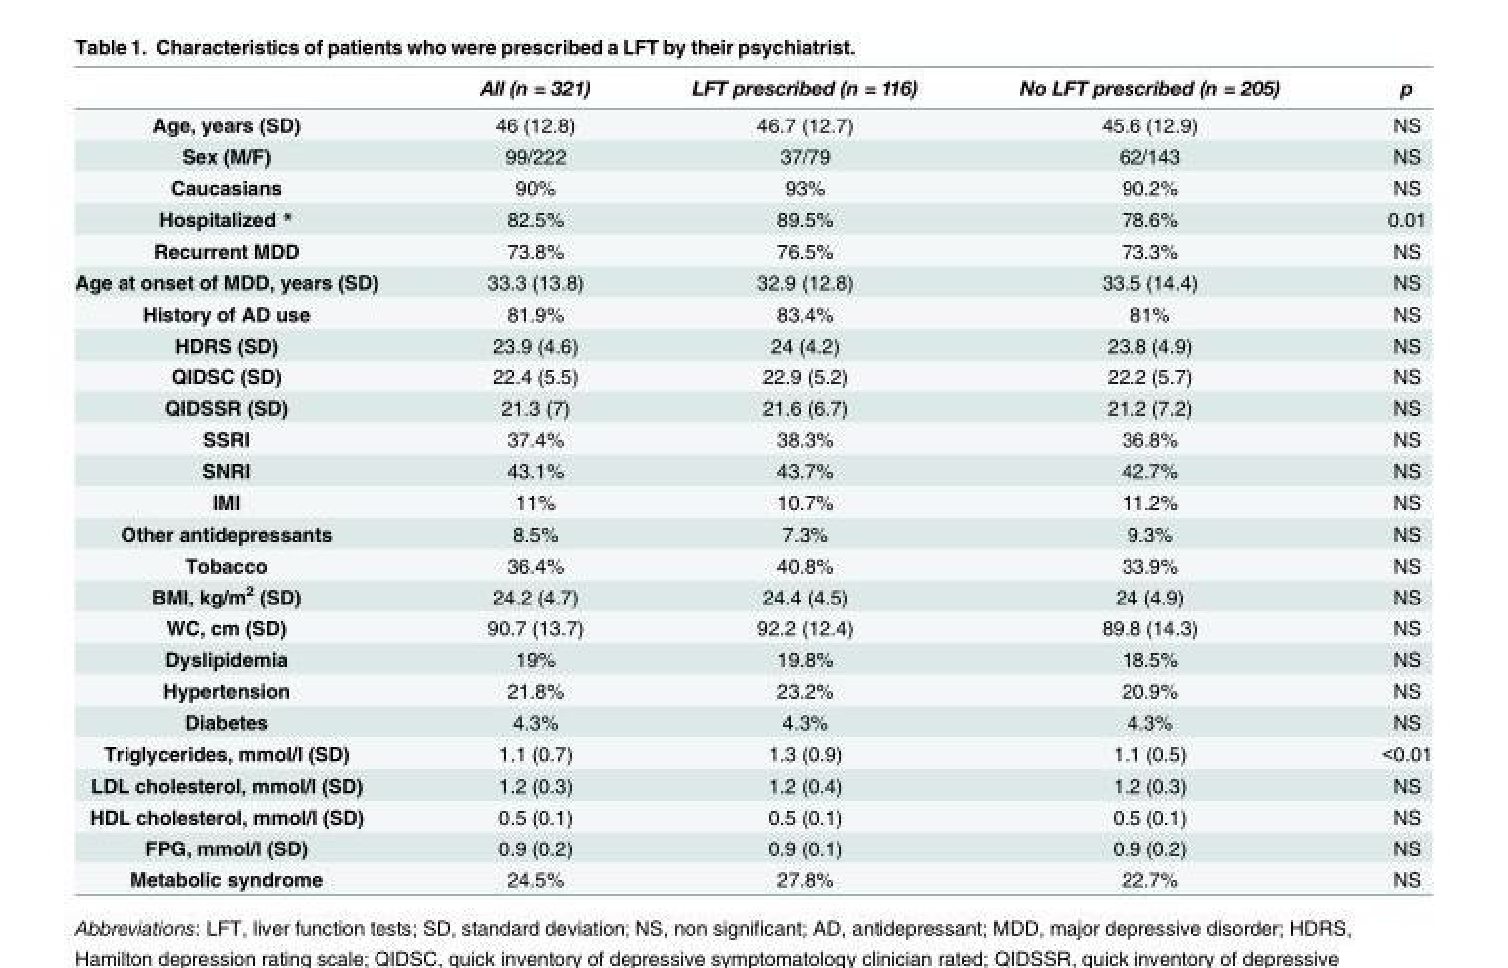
<table><thead><tr><td></td><td>All (n = 321)</td><td>LFT prescribed (n = 116)</td><td>No LFT prescribed (n = 205)</td><td>p</td></tr></thead><tbody><tr><td>Age, years (SD)</td><td>46 (12.8)</td><td>46.7 (12.7)</td><td>45.6 (12.9)</td><td>NS</td></tr><tr><td>Sex (M/F)</td><td>99/222</td><td>37/79</td><td>62/143</td><td>NS</td></tr><tr><td>Caucasians</td><td>90%</td><td>93%</td><td>90.2%</td><td>NS</td></tr><tr><td>Hospitalized *</td><td>82.5%</td><td>89.5%</td><td>78.6%</td><td>0.01</td></tr><tr><td>Recurrent MDD</td><td>73.8%</td><td>76.5%</td><td>73.3%</td><td>NS</td></tr><tr><td>Age at onset of MDD, years (SD)</td><td>33.3 (13.8)</td><td>32.9 (12.8)</td><td>33.5 (14.4)</td><td>NS</td></tr><tr><td>History of AD use</td><td>81.9%</td><td>83.4%</td><td>81%</td><td>NS</td></tr><tr><td>HDRS (SD)</td><td>23.9 (4.6)</td><td>24 (4.2)</td><td>23.8 (4.9)</td><td>NS</td></tr><tr><td>QIDSC (SD)</td><td>22.4 (5.5)</td><td>22.9 (5.2)</td><td>22.2 (5.7)</td><td>NS</td></tr><tr><td>QIDSSR (SD)</td><td>21.3 (7)</td><td>21.6 (6.7)</td><td>21.2 (7.2)</td><td>NS</td></tr><tr><td>SSRI</td><td>37.4%</td><td>38.3%</td><td>36.8%</td><td>NS</td></tr><tr><td>SNRI</td><td>43.1%</td><td>43.7%</td><td>42.7%</td><td>NS</td></tr><tr><td>IMI</td><td>11%</td><td>10.7%</td><td>11.2%</td><td>NS</td></tr><tr><td>Other antidepressants</td><td>8.5%</td><td>7.3%</td><td>9.3%</td><td>NS</td></tr><tr><td>Tobacco</td><td>36.4%</td><td>40.8%</td><td>33.9%</td><td>NS</td></tr><tr><td>BMI, kg/m<sup>2</sup> (SD)</td><td>24.2 (4.7)</td><td>24.4 (4.5)</td><td>24 (4.9)</td><td>NS</td></tr><tr><td>WC, cm (SD)</td><td>90.7 (13.7)</td><td>92.2 (12.4)</td><td>89.8 (14.3)</td><td>NS</td></tr><tr><td>Dyslipidemia</td><td>19%</td><td>19.8%</td><td>18.5%</td><td>NS</td></tr><tr><td>Hypertension</td><td>21.8%</td><td>23.2%</td><td>20.9%</td><td>NS</td></tr><tr><td>Diabetes</td><td>4.3%</td><td>4.3%</td><td>4.3%</td><td>NS</td></tr><tr><td>Triglycerides, mmol/l (SD)</td><td>1.1 (0.7)</td><td>1.3 (0.9)</td><td>1.1 (0.5)</td><td>&lt;0.01</td></tr><tr><td>LDL cholesterol, mmol/l (SD)</td><td>1.2 (0.3)</td><td>1.2 (0.4)</td><td>1.2 (0.3)</td><td>NS</td></tr><tr><td>HDL cholesterol, mmol/l (SD)</td><td>0.5 (0.1)</td><td>0.5 (0.1)</td><td>0.5 (0.1)</td><td>NS</td></tr><tr><td>FPG, mmol/l (SD)</td><td>0.9 (0.2)</td><td>0.9 (0.1)</td><td>0.9 (0.2)</td><td>NS</td></tr><tr><td>Metabolic syndrome</td><td>24.5%</td><td>27.8%</td><td>22.7%</td><td>NS</td></tr></tbody></table>